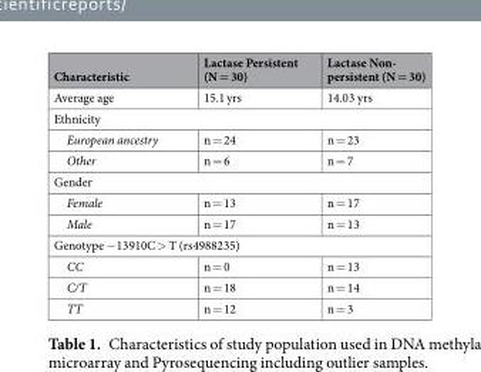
<table><thead><tr><td>Characteristic</td><td>Lactase Persistent (N = 30)</td><td>Lactase Non- persistent (N = 30)</td></tr></thead><tbody><tr><td>Average age</td><td>15.1 yrs</td><td>14.03 yrs</td></tr><tr><td colspan="3">Ethnicity</td></tr><tr><td>European ancestry</td><td>n = 24</td><td>n = 23</td></tr><tr><td>Other</td><td>n = 6</td><td>n = 7</td></tr><tr><td colspan="3">Gender</td></tr><tr><td>Female</td><td>n = 13</td><td>n = 17</td></tr><tr><td>Male</td><td>n = 17</td><td>n = 13</td></tr><tr><td colspan="3">Genotype −13910C &gt; T (rs4988235)</td></tr><tr><td>CC</td><td>n = 0</td><td>n = 13</td></tr><tr><td>C/T</td><td>n = 18</td><td>n = 14</td></tr><tr><td>TT</td><td>n = 12</td><td>n = 3</td></tr></tbody></table>